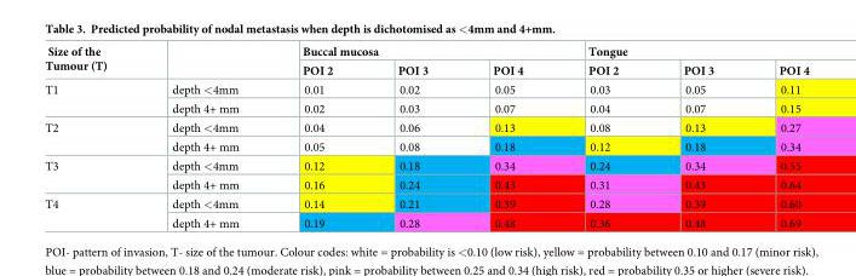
<table><thead><tr><td rowspan="2">Size of the Tumour (T)</td><td rowspan="2"></td><td colspan="3">Buccal mucosa</td><td colspan="3">Tongue</td></tr><tr><td>POI 2</td><td>POI 3</td><td>POI 4</td><td>POI 2</td><td>POI 3</td><td>POI 4</td></tr></thead><tbody><tr><td rowspan="2">T1</td><td>depth &lt;4mm</td><td>0.01</td><td>0.02</td><td>0.05</td><td>0.03</td><td>0.05</td><td>0.11</td></tr><tr><td>depth 4+ mm</td><td>0.02</td><td>0.03</td><td>0.07</td><td>0.04</td><td>0.07</td><td>0.15</td></tr><tr><td rowspan="2">T2</td><td>depth &lt;4mm</td><td>0.04</td><td>0.06</td><td>0.13</td><td>0.08</td><td>0.13</td><td>0.27</td></tr><tr><td>depth 4+ mm</td><td>0.05</td><td>0.08</td><td>0.18</td><td>0.12</td><td>0.18</td><td>0.34</td></tr><tr><td rowspan="2">T3</td><td>depth &lt;4mm</td><td>0.12</td><td>0.18</td><td>0.34</td><td>0.24</td><td>0.34</td><td>0.55</td></tr><tr><td>depth 4+ mm</td><td>0.16</td><td>0.24</td><td>0.43</td><td>0.31</td><td>0.43</td><td>0.64</td></tr><tr><td rowspan="2">T4</td><td>depth &lt;4mm</td><td>0.14</td><td>0.21</td><td>0.39</td><td>0.28</td><td>0.39</td><td>0.60</td></tr><tr><td>depth 4+ mm</td><td>0.19</td><td>0.28</td><td>0.48</td><td>0.36</td><td>0.48</td><td>0.69</td></tr></tbody></table>